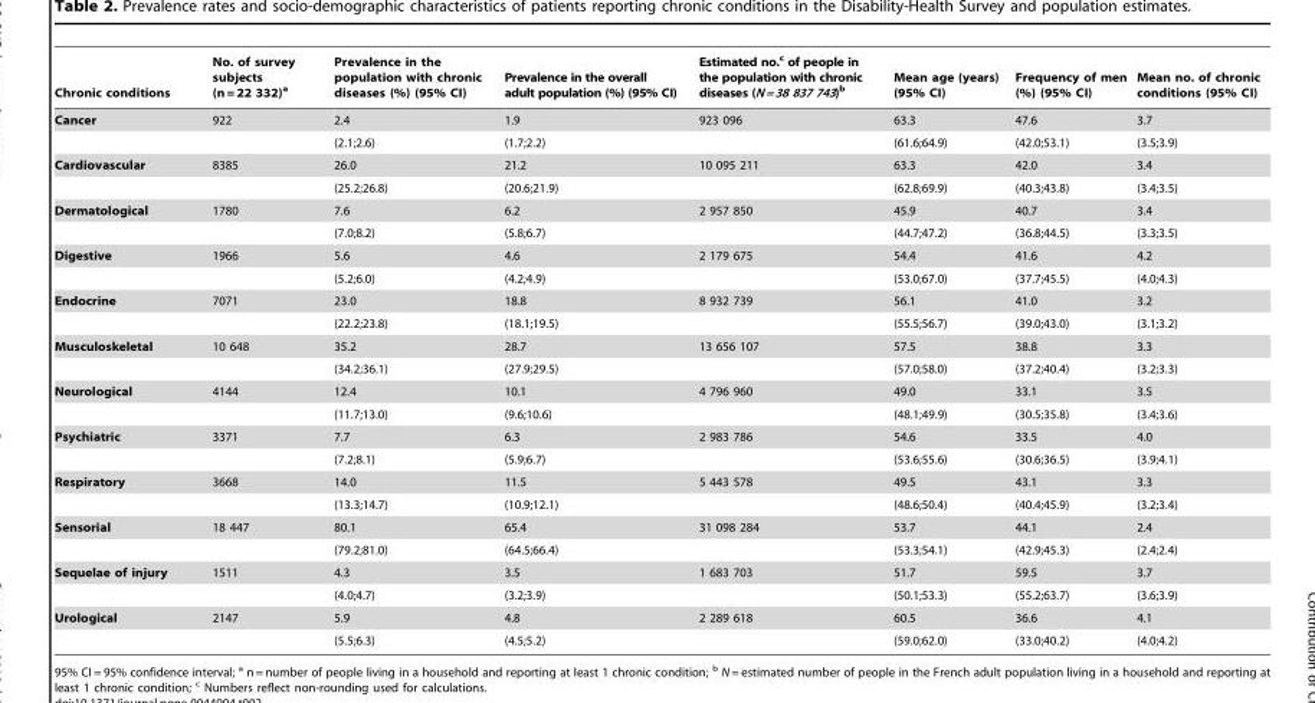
<table><thead><tr><td>Chronic conditions</td><td>No. of survey subjects (n = 22 332)<sup>a</sup></td><td>Prevalence in the population with chronic diseases (%) (95% CI)</td><td>Prevalence in the overall adult population (%) (95% CI)</td><td>Estimated no.<sup>c</sup> of people in the population with chronic diseases (N=38 837 743)<sup>b</sup></td><td>Mean age (years) (95% CI)</td><td>Frequency of men (%) (95% CI)</td><td>Mean no. of chronic conditions (95% CI)</td></tr></thead><tbody><tr><td rowspan="2">Cancer</td><td>922</td><td>2.4</td><td>1.9</td><td>923 096</td><td>63.3</td><td>47.6</td><td>3.7</td></tr><tr><td></td><td>(2.1;2.6)</td><td>(1.7;2.2)</td><td></td><td>(61.6;64.9)</td><td>(42.0;53.1)</td><td>(3.5;3.9)</td></tr><tr><td rowspan="2">Cardiovascular</td><td>8385</td><td>26.0</td><td>21.2</td><td>10 095 211</td><td>63.3</td><td>42.0</td><td>3.4</td></tr><tr><td></td><td>(25.2;26.8)</td><td>(20.6;21.9)</td><td></td><td>(62.8;69.9)</td><td>(40.3;43.8)</td><td>(3.4;3.5)</td></tr><tr><td rowspan="2">Dermatological</td><td>1780</td><td>7.6</td><td>6.2</td><td>2 957 850</td><td>45.9</td><td>40.7</td><td>3.4</td></tr><tr><td></td><td>(7.0;8.2)</td><td>(5.8;6.7)</td><td></td><td>(44.7;47.2)</td><td>(36.8;44.5)</td><td>(3.3;3.5)</td></tr><tr><td rowspan="2">Digestive</td><td>1966</td><td>5.6</td><td>4.6</td><td>2 179 675</td><td>54.4</td><td>41.6</td><td>4.2</td></tr><tr><td></td><td>(5.2;6.0)</td><td>(4.2;4.9)</td><td></td><td>(53.0;67.0)</td><td>(37.7;45.5)</td><td>(4.0;4.3)</td></tr><tr><td rowspan="2">Endocrine</td><td>7071</td><td>23.0</td><td>18.8</td><td>8 932 739</td><td>56.1</td><td>41.0</td><td>3.2</td></tr><tr><td></td><td>(22.2;23.8)</td><td>(18.1;19.5)</td><td></td><td>(55.5;56.7)</td><td>(39.0;43.0)</td><td>(3.1;3.2)</td></tr><tr><td rowspan="2">Musculoskeletal</td><td>10 648</td><td>35.2</td><td>28.7</td><td>13 656 107</td><td>57.5</td><td>38.8</td><td>3.3</td></tr><tr><td></td><td>(34.2;36.1)</td><td>(27.9;29.5)</td><td></td><td>(57.0;58.0)</td><td>(37.2;40.4)</td><td>(3.2;3.3)</td></tr><tr><td rowspan="2">Neurological</td><td>4144</td><td>12.4</td><td>10.1</td><td>4 796 960</td><td>49.0</td><td>33.1</td><td>3.5</td></tr><tr><td></td><td>(11.7;13.0)</td><td>(9.6;10.6)</td><td></td><td>(48.1;49.9)</td><td>(30.5;35.8)</td><td>(3.4;3.6)</td></tr><tr><td rowspan="2">Psychiatric</td><td>3371</td><td>7.7</td><td>6.3</td><td>2 983 786</td><td>54.6</td><td>33.5</td><td>4.0</td></tr><tr><td></td><td>(7.2;8.1)</td><td>(5.9;6.7)</td><td></td><td>(53.6;55.6)</td><td>(30.6;36.5)</td><td>(3.9;4.1)</td></tr><tr><td rowspan="2">Respiratory</td><td>3668</td><td>14.0</td><td>11.5</td><td>5 443 578</td><td>49.5</td><td>43.1</td><td>3.3</td></tr><tr><td></td><td>(13.3;14.7)</td><td>(10.9;12.1)</td><td></td><td>(48.6;50.4)</td><td>(40.4;45.9)</td><td>(3.2;3.4)</td></tr><tr><td rowspan="2">Sensorial</td><td>18 447</td><td>80.1</td><td>65.4</td><td>31 098 284</td><td>53.7</td><td>44.1</td><td>2.4</td></tr><tr><td></td><td>(79.2;81.0)</td><td>(64.5;66.4)</td><td></td><td>(53.3;54.1)</td><td>(42.9;45.3)</td><td>(2.4;2.4)</td></tr><tr><td rowspan="2">Sequelae of injury</td><td>1511</td><td>4.3</td><td>3.5</td><td>1 683 703</td><td>51.7</td><td>59.5</td><td>3.7</td></tr><tr><td></td><td>(4.0;4.7)</td><td>(3.2;3.9)</td><td></td><td>(50.1;53.3)</td><td>(55.2;63.7)</td><td>(3.6;3.9)</td></tr><tr><td rowspan="2">Urological</td><td>2147</td><td>5.9</td><td>4.8</td><td>2 289 618</td><td>60.5</td><td>36.6</td><td>4.1</td></tr><tr><td></td><td>(5.5;6.3)</td><td>(4.5;5.2)</td><td></td><td>(59.0;62.0)</td><td>(33.0;40.2)</td><td>(4.0;4.2)</td></tr></tbody></table>